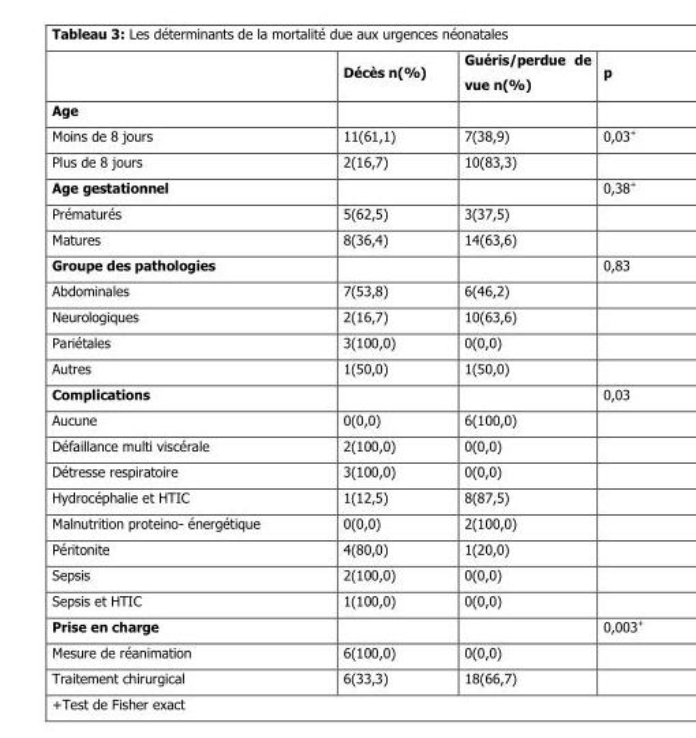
<table><thead><tr><td></td><td>Décès n(%)</td><td>Guéris/perdue de vue n(%)</td><td>p</td></tr></thead><tbody><tr><td colspan="4">Age</td></tr><tr><td>Moins de 8 jours</td><td>11(61,1)</td><td>7(38,9)</td><td>0,03+</td></tr><tr><td>Plus de 8 jours</td><td>2(16,7)</td><td>10(83,3)</td><td></td></tr><tr><td>Age gestationnel</td><td></td><td></td><td>0,38+</td></tr><tr><td>Prématurés</td><td>5(62,5)</td><td>3(37,5)</td><td></td></tr><tr><td>Matures</td><td>8(36,4)</td><td>14(63,6)</td><td></td></tr><tr><td>Groupe des pathologies</td><td></td><td></td><td>0,83</td></tr><tr><td>Abdominales</td><td>7(53,8)</td><td>6(46,2)</td><td></td></tr><tr><td>Neurologiques</td><td>2(16,7)</td><td>10(63,6)</td><td></td></tr><tr><td>Pariétales</td><td>3(100,0)</td><td>0(0,0)</td><td></td></tr><tr><td>Autres</td><td>1(50,0)</td><td>1(50,0)</td><td></td></tr><tr><td>Complications</td><td></td><td></td><td>0,03</td></tr><tr><td>Aucune</td><td>0(0,0)</td><td>6(100,0)</td><td></td></tr><tr><td>Défaillance multi viscérale</td><td>2(100,0)</td><td>0(0,0)</td><td></td></tr><tr><td>Détresse respiratoire</td><td>3(100,0)</td><td>0(0,0)</td><td></td></tr><tr><td>Hydrocéphalie et HTIC</td><td>1(12,5)</td><td>8(87,5)</td><td></td></tr><tr><td>Malnutrition proteino- énergétique</td><td>0(0,0)</td><td>2(100,0)</td><td></td></tr><tr><td>Péritonite</td><td>4(80,0)</td><td>1(20,0)</td><td></td></tr><tr><td>Sepsis</td><td>2(100,0)</td><td>0(0,0)</td><td></td></tr><tr><td>Sepsis et HTIC</td><td>1(100,0)</td><td>0(0,0)</td><td></td></tr><tr><td>Prise en charge</td><td></td><td></td><td>0,003+</td></tr><tr><td>Mesure de réanimation</td><td>6(100,0)</td><td>0(0,0)</td><td></td></tr><tr><td>Traitement chirurgical</td><td>6(33,3)</td><td>18(66,7)</td><td></td></tr></tbody></table>